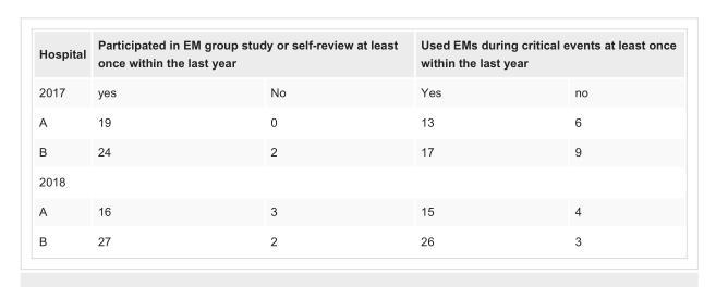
<table><tbody><tr><td>Hospital</td><td colspan="2">Participated in EM group study or self-review at least once within the last year</td><td colspan="2">Used EMs during critical events at least once within the last year</td></tr><tr><td>2017</td><td>yes</td><td>No</td><td>Yes</td><td>no</td></tr><tr><td>A</td><td>19</td><td>0</td><td>13</td><td>6</td></tr><tr><td>B</td><td>24</td><td>2</td><td>17</td><td>9</td></tr><tr><td colspan="5">2018</td></tr><tr><td>A</td><td>16</td><td>3</td><td>15</td><td>4</td></tr><tr><td>B</td><td>27</td><td>2</td><td>26</td><td>3</td></tr></tbody></table>